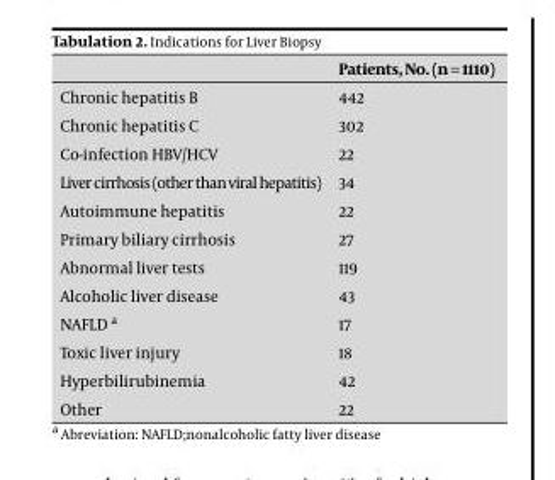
<table><thead><tr><td></td><td>Patients, No. (n = 1110)</td></tr></thead><tbody><tr><td>Chronic hepatitis B</td><td>442</td></tr><tr><td>Chronic hepatitis C</td><td>302</td></tr><tr><td>Co-infection HBV/HCV</td><td>22</td></tr><tr><td>Liver cirrhosis (other than viral hepatitis)</td><td>34</td></tr><tr><td>Autoimmune hepatitis</td><td>22</td></tr><tr><td>Primary biliary cirrhosis</td><td>27</td></tr><tr><td>Abnormal liver tests</td><td>119</td></tr><tr><td>Alcoholic liver disease</td><td>43</td></tr><tr><td>NAFLD a</td><td>17</td></tr><tr><td>Toxic liver injury</td><td>18</td></tr><tr><td>Hyperbilirubinemia</td><td>42</td></tr><tr><td>Other</td><td>22</td></tr></tbody></table>